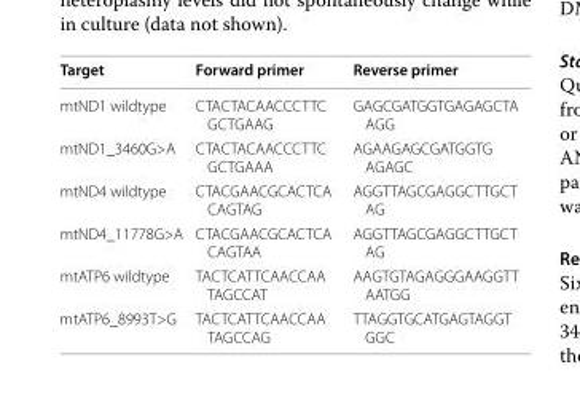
<table><thead><tr><td>Target</td><td>Forward primer</td><td>Reverse primer</td></tr></thead><tbody><tr><td>mtND1 wildtype</td><td>CTA CTA CAA CCC TTC GCT GAAG</td><td>GAG CGA TGG TGA GAG CTA AGG</td></tr><tr><td>mtND1_3460G&gt;A</td><td>CTA CTA CAA CCC TTC GCT GAAA</td><td>AGA AGA GCG ATG GTG AGA GC</td></tr><tr><td>mtND4 wildtype</td><td>CTA CGA ACG CAC TCA CAG TAG</td><td>AGG TTA GCG AGG CTT GCT AG</td></tr><tr><td>mtND4_11778G&gt;A</td><td>CTA CGA ACG CAC TCA CAG TAA</td><td>AGG TTA GCG AGG CTT GCT AG</td></tr><tr><td>mtATP6 wildtype</td><td>TAC TCA TTC AAC CAA TAG CCAT</td><td>AAG TGT AGA GGG AAG GTT AATGG</td></tr><tr><td>mtATP6_8993T&gt;G</td><td>TAC TCA TTC AAC CAA TAG CCAG</td><td>TTA GGT GCA TGA GTA GGT GGC</td></tr></tbody></table>